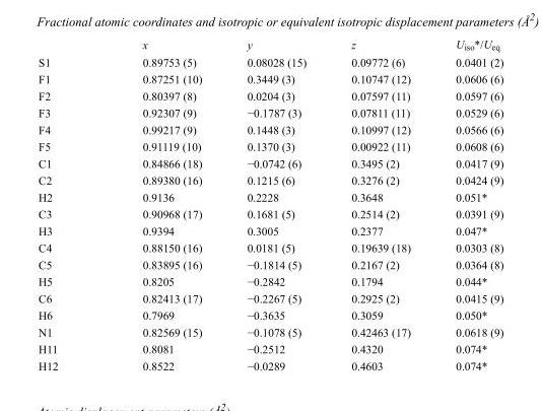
<table><thead><tr><td></td><td>x</td><td>y</td><td>z</td><td>U<sub>iso</sub>*/U<sub>eq</sub></td></tr></thead><tbody><tr><td>S1</td><td>0.89753 (5)</td><td>0.08028 (15)</td><td>0.09772 (6)</td><td>0.0401 (2)</td></tr><tr><td>F1</td><td>0.87251 (10)</td><td>0.3449 (3)</td><td>0.10747 (12)</td><td>0.0606 (6)</td></tr><tr><td>F2</td><td>0.80397 (8)</td><td>0.0204 (3)</td><td>0.07597 (11)</td><td>0.0597 (6)</td></tr><tr><td>F3</td><td>0.92307 (9)</td><td>−0.1787 (3)</td><td>0.07811 (11)</td><td>0.0529 (6)</td></tr><tr><td>F4</td><td>0.99217 (9)</td><td>0.1448 (3)</td><td>0.10997 (12)</td><td>0.0566 (6)</td></tr><tr><td>F5</td><td>0.91119 (10)</td><td>0.1370 (3)</td><td>0.00922 (11)</td><td>0.0608 (6)</td></tr><tr><td>C1</td><td>0.84866 (18)</td><td>−0.0742 (6)</td><td>0.3495 (2)</td><td>0.0417 (9)</td></tr><tr><td>C2</td><td>0.89380 (16)</td><td>0.1215 (6)</td><td>0.3276 (2)</td><td>0.0424 (9)</td></tr><tr><td>H2</td><td>0.9136</td><td>0.2228</td><td>0.3648</td><td>0.051*</td></tr><tr><td>C3</td><td>0.90968 (17)</td><td>0.1681 (5)</td><td>0.2514 (2)</td><td>0.0391 (9)</td></tr><tr><td>H3</td><td>0.9394</td><td>0.3005</td><td>0.2377</td><td>0.047*</td></tr><tr><td>C4</td><td>0.88150 (16)</td><td>0.0181 (5)</td><td>0.19639 (18)</td><td>0.0303 (8)</td></tr><tr><td>C5</td><td>0.83895 (16)</td><td>−0.1814 (5)</td><td>0.2167 (2)</td><td>0.0364 (8)</td></tr><tr><td>H5</td><td>0.8205</td><td>−0.2842</td><td>0.1794</td><td>0.044*</td></tr><tr><td>C6</td><td>0.82413 (17)</td><td>−0.2267 (5)</td><td>0.2925 (2)</td><td>0.0415 (9)</td></tr><tr><td>H6</td><td>0.7969</td><td>−0.3635</td><td>0.3059</td><td>0.050*</td></tr><tr><td>N1</td><td>0.82569 (15)</td><td>−0.1078 (5)</td><td>0.42463 (17)</td><td>0.0618 (9)</td></tr><tr><td>H11</td><td>0.8081</td><td>−0.2512</td><td>0.4320</td><td>0.074*</td></tr><tr><td>H12</td><td>0.8522</td><td>−0.0289</td><td>0.4603</td><td>0.074*</td></tr></tbody></table>